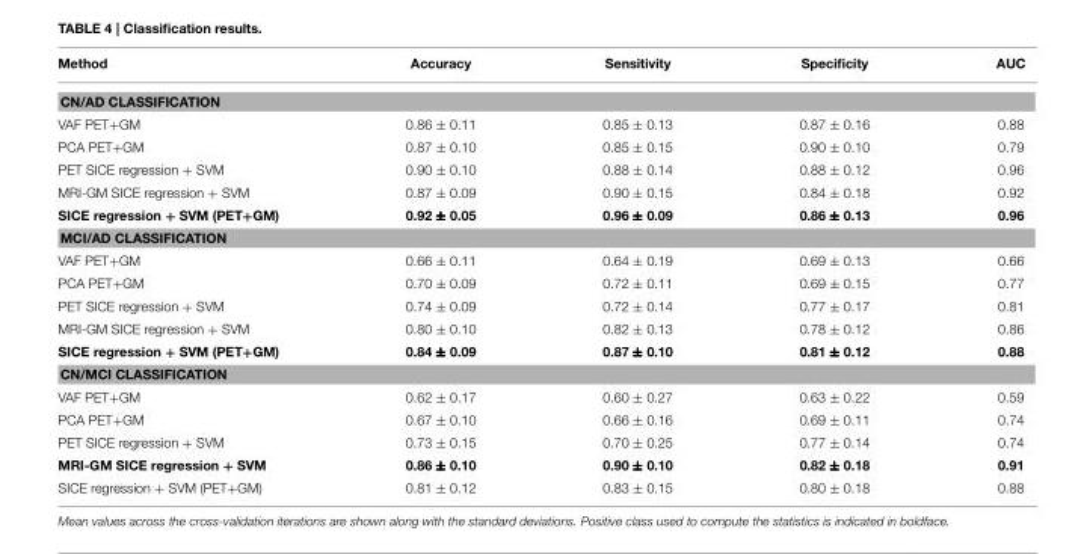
<table><thead><tr><td>Method</td><td>Accuracy</td><td>Sensitivity</td><td>Specificity</td><td>AUC</td></tr></thead><tbody><tr><td colspan="5">CN/AD CLASSIFICATION</td></tr><tr><td>VAF PET+GM</td><td>0.86 ± 0.11</td><td>0.85 ± 0.13</td><td>0.87 ± 0.16</td><td>0.88</td></tr><tr><td>PCA PET+GM</td><td>0.87 ± 0.10</td><td>0.85 ± 0.15</td><td>0.90 ± 0.10</td><td>0.79</td></tr><tr><td>PET SICE regression + SVM</td><td>0.90 ± 0.10</td><td>0.88 ± 0.14</td><td>0.88 ± 0.12</td><td>0.96</td></tr><tr><td>MRI-GM SICE regression + SVM</td><td>0.87 ± 0.09</td><td>0.90 ± 0.15</td><td>0.84 ± 0.18</td><td>0.92</td></tr><tr><td>SICE regression + SVM (PET+GM)</td><td>0.92 ±±± 0.05</td><td>0.96 ±±± 0.09</td><td>0.86 ±±± 0.13</td><td>0.96</td></tr><tr><td colspan="5">MCI/AD CLASSIFICATION</td></tr><tr><td>VAF PET+GM</td><td>0.66 ± 0.11</td><td>0.64 ± 0.19</td><td>0.69 ± 0.13</td><td>0.66</td></tr><tr><td>PCA PET+GM</td><td>0.70 ± 0.09</td><td>0.72 ± 0.11</td><td>0.69 ± 0.15</td><td>0.77</td></tr><tr><td>PET SICE regression + SVM</td><td>0.74 ± 0.09</td><td>0.72 ± 0.14</td><td>0.77 ± 0.17</td><td>0.81</td></tr><tr><td>MRI-GM SICE regression + SVM</td><td>0.80 ± 0.10</td><td>0.82 ± 0.13</td><td>0.78 ± 0.12</td><td>0.86</td></tr><tr><td>SICE regression + SVM (PET+GM)</td><td>0.84 ±±± 0.09</td><td>0.87 ±±± 0.10</td><td>0.81 ±±± 0.12</td><td>0.88</td></tr><tr><td colspan="5">CN/MCI CLASSIFICATION</td></tr><tr><td>VAF PET+GM</td><td>0.62 ± 0.17</td><td>0.60 ± 0.27</td><td>0.63 ± 0.22</td><td>0.59</td></tr><tr><td>PCA PET+GM</td><td>0.67 ± 0.10</td><td>0.66 ± 0.16</td><td>0.69 ± 0.11</td><td>0.74</td></tr><tr><td>PET SICE regression + SVM</td><td>0.73 ± 0.15</td><td>0.70 ± 0.25</td><td>0.77 ± 0.14</td><td>0.74</td></tr><tr><td>MRI-GM SICE regression + SVM</td><td>0.86 ±±± 0.10</td><td>0.90 ±±± 0.10</td><td>0.82 ±±± 0.18</td><td>0.91</td></tr><tr><td>SICE regression + SVM (PET+GM)</td><td>0.81 ± 0.12</td><td>0.83 ± 0.15</td><td>0.80 ± 0.18</td><td>0.88</td></tr></tbody></table>